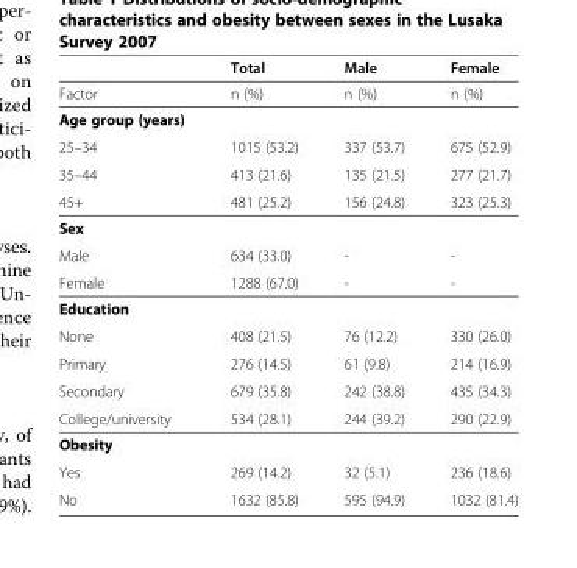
<table><thead><tr><td></td><td>Total</td><td>Male</td><td>Female</td></tr></thead><tbody><tr><td>Factor</td><td>n (%)</td><td>n (%)</td><td>n (%)</td></tr><tr><td colspan="4">Age group (years)</td></tr><tr><td>25–34</td><td>1015 (53.2)</td><td>337 (53.7)</td><td>675 (52.9)</td></tr><tr><td>35–44</td><td>413 (21.6)</td><td>135 (21.5)</td><td>277 (21.7)</td></tr><tr><td>45+</td><td>481 (25.2)</td><td>156 (24.8)</td><td>323 (25.3)</td></tr><tr><td colspan="4">Sex</td></tr><tr><td>Male</td><td>634 (33.0)</td><td>-</td><td>-</td></tr><tr><td>Female</td><td>1288 (67.0)</td><td>-</td><td>-</td></tr><tr><td colspan="4">Education</td></tr><tr><td>None</td><td>408 (21.5)</td><td>76 (12.2)</td><td>330 (26.0)</td></tr><tr><td>Primary</td><td>276 (14.5)</td><td>61 (9.8)</td><td>214 (16.9)</td></tr><tr><td>Secondary</td><td>679 (35.8)</td><td>242 (38.8)</td><td>435 (34.3)</td></tr><tr><td>College/university</td><td>534 (28.1)</td><td>244 (39.2)</td><td>290 (22.9)</td></tr><tr><td colspan="4">Obesity</td></tr><tr><td>Yes</td><td>269 (14.2)</td><td>32 (5.1)</td><td>236 (18.6)</td></tr><tr><td>No</td><td>1632 (85.8)</td><td>595 (94.9)</td><td>1032 (81.4)</td></tr></tbody></table>